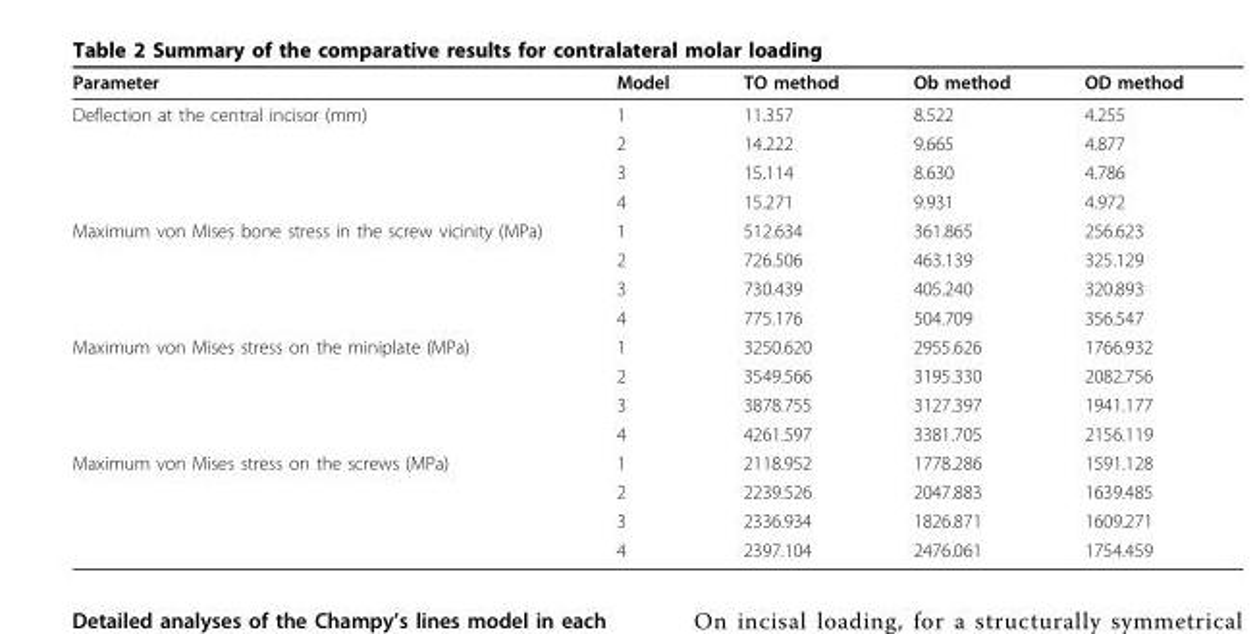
<table><thead><tr><td>Parameter</td><td>Model</td><td>TO method</td><td>Ob method</td><td>OD method</td></tr></thead><tbody><tr><td rowspan="4">Deflection at the central incisor (mm)</td><td>1</td><td>11.357</td><td>8.522</td><td>4.255</td></tr><tr><td>2</td><td>14.222</td><td>9.665</td><td>4.877</td></tr><tr><td>3</td><td>15.114</td><td>8.630</td><td>4.786</td></tr><tr><td>4</td><td>15.271</td><td>9.931</td><td>4.972</td></tr><tr><td rowspan="4">Maximum von Mises bone stress in the screw vicinity (MPa)</td><td>1</td><td>512.634</td><td>361.865</td><td>256.623</td></tr><tr><td>2</td><td>726.506</td><td>463.139</td><td>325.129</td></tr><tr><td>3</td><td>730.439</td><td>405.240</td><td>320.893</td></tr><tr><td>4</td><td>775.176</td><td>504.709</td><td>356.547</td></tr><tr><td rowspan="4">Maximum von Mises stress on the miniplate (MPa)</td><td>1</td><td>3250.620</td><td>2955.626</td><td>1766.932</td></tr><tr><td>2</td><td>3549.566</td><td>3195.330</td><td>2082.756</td></tr><tr><td>3</td><td>3878.755</td><td>3127.397</td><td>1941.177</td></tr><tr><td>4</td><td>4261.597</td><td>3381.705</td><td>2156.119</td></tr><tr><td rowspan="4">Maximum von Mises stress on the screws (MPa)</td><td>1</td><td>2118.952</td><td>1778.286</td><td>1591.128</td></tr><tr><td>2</td><td>2239.526</td><td>2047.883</td><td>1639.485</td></tr><tr><td>3</td><td>2336.934</td><td>1826.871</td><td>1609.271</td></tr><tr><td>4</td><td>2397.104</td><td>2476.061</td><td>1754.459</td></tr></tbody></table>